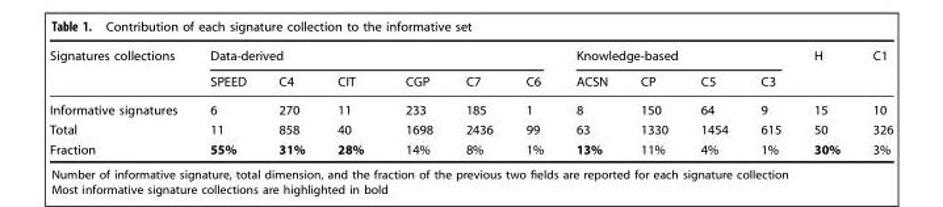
<table><thead><tr><td rowspan="2">Signatures collections</td><td colspan="6">Data-derived</td><td colspan="4">Knowledge-based</td><td rowspan="2">H</td><td rowspan="2">C1</td></tr><tr><td>SPEED</td><td>C4</td><td>CIT</td><td>CGP</td><td>C7</td><td>C6</td><td>ACSN</td><td>CP</td><td>C5</td><td>C3</td></tr></thead><tbody><tr><td>Informative signatures</td><td>6</td><td>270</td><td>11</td><td>233</td><td>185</td><td>1</td><td>8</td><td>150</td><td>64</td><td>9</td><td>15</td><td>10</td></tr><tr><td>Total</td><td>11</td><td>858</td><td>40</td><td>1698</td><td>2436</td><td>99</td><td>63</td><td>1330</td><td>1454</td><td>615</td><td>50</td><td>326</td></tr><tr><td>Fraction</td><td>55%</td><td>31%</td><td>28%</td><td>14%</td><td>8%</td><td>1%</td><td>13%</td><td>11%</td><td>4%</td><td>1%</td><td>30%</td><td>3%</td></tr></tbody></table>